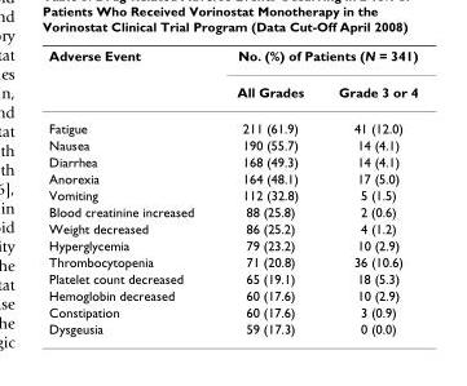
<table><thead><tr><td rowspan="2">Adverse Event</td><td colspan="2">No. (%) of Patients (N = 341)</td></tr><tr><td>All Grades</td><td>Grade 3 or 4</td></tr></thead><tbody><tr><td>Fatigue</td><td>211 (61.9)</td><td>41 (12.0)</td></tr><tr><td>Nausea</td><td>190 (55.7)</td><td>14 (4.1)</td></tr><tr><td>Diarrhea</td><td>168 (49.3)</td><td>14 (4.1)</td></tr><tr><td>Anorexia</td><td>164 (48.1)</td><td>17 (5.0)</td></tr><tr><td>Vomiting</td><td>112 (32.8)</td><td>5 (1.5)</td></tr><tr><td>Blood creatinine increased</td><td>88 (25.8)</td><td>2 (0.6)</td></tr><tr><td>Weight decreased</td><td>86 (25.2)</td><td>4 (1.2)</td></tr><tr><td>Hyperglycemia</td><td>79 (23.2)</td><td>10 (2.9)</td></tr><tr><td>Thrombocytopenia</td><td>71 (20.8)</td><td>36 (10.6)</td></tr><tr><td>Platelet count decreased</td><td>65 (19.1)</td><td>18 (5.3)</td></tr><tr><td>Hemoglobin decreased</td><td>60 (17.6)</td><td>10 (2.9)</td></tr><tr><td>Constipation</td><td>60 (17.6)</td><td>3 (0.9)</td></tr><tr><td>Dysgeusia</td><td>59 (17.3)</td><td>0 (0.0)</td></tr></tbody></table>